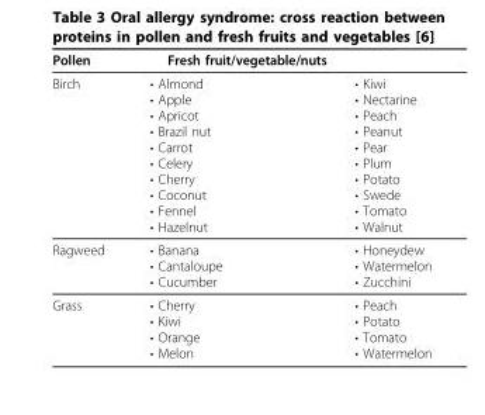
<table><thead><tr><td>Pollen</td><td>Fresh fruit/vegetable/nuts</td><td></td></tr></thead><tbody><tr><td>Birch</td><td>• Almond • Apple • Apricot • Brazil nut • Carrot • Celery • Cherry • Coconut • Fennel • Hazelnut</td><td>• Kiwi • Nectarine • Peach • Peanut • Pear • Plum • Potato • Swede • Tomato • Walnut</td></tr><tr><td>Ragweed</td><td>• Banana • Cantaloupe • Cucumber</td><td>• Honeydew • Watermelon • Zucchini</td></tr><tr><td>Grass</td><td>• Cherry • Kiwi • Orange • Melon</td><td>• Peach • Potato • Tomato • Watermelon</td></tr></tbody></table>